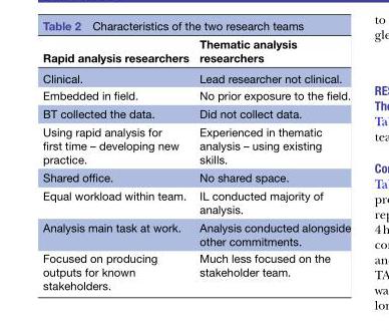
<table><thead><tr><td>Rapid analysis researchers</td><td>Thematic analysis researchers</td></tr></thead><tbody><tr><td>Clinical.</td><td>Lead researcher not clinical.</td></tr><tr><td>Embedded in field.</td><td>No prior exposure to the field.</td></tr><tr><td>BT collected the data.</td><td>Did not collect data.</td></tr><tr><td>Using rapid analysis for first time – developing new practice.</td><td>Experienced in thematic analysis – using existing skills.</td></tr><tr><td>Shared office.</td><td>No shared space.</td></tr><tr><td>Equal workload within team.</td><td>IL conducted majority of analysis.</td></tr><tr><td>Analysis main task at work.</td><td>Analysis conducted alongside other commitments.</td></tr><tr><td>Focused on producing outputs for known stakeholders.</td><td>Much less focused on the stakeholder team.</td></tr></tbody></table>